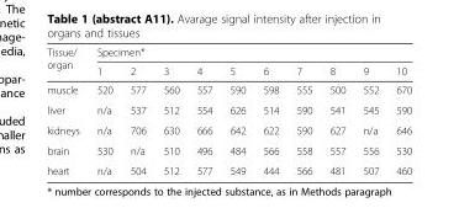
<table><thead><tr><td rowspan="2">Tissue/ organ</td><td colspan="10">Specimen*</td></tr><tr><td>1</td><td>2</td><td>3</td><td>4</td><td>5</td><td>6</td><td>7</td><td>8</td><td>9</td><td>10</td></tr></thead><tbody><tr><td>muscle</td><td>520</td><td>577</td><td>560</td><td>557</td><td>590</td><td>598</td><td>555</td><td>500</td><td>552</td><td>670</td></tr><tr><td>liver</td><td>n/a</td><td>537</td><td>512</td><td>554</td><td>626</td><td>514</td><td>590</td><td>541</td><td>545</td><td>590</td></tr><tr><td>kidneys</td><td>n/a</td><td>706</td><td>630</td><td>666</td><td>642</td><td>622</td><td>590</td><td>627</td><td>n/a</td><td>646</td></tr><tr><td>brain</td><td>530</td><td>n/a</td><td>510</td><td>496</td><td>484</td><td>566</td><td>558</td><td>557</td><td>556</td><td>530</td></tr><tr><td>heart</td><td>n/a</td><td>504</td><td>512</td><td>577</td><td>549</td><td>444</td><td>566</td><td>481</td><td>507</td><td>460</td></tr></tbody></table>